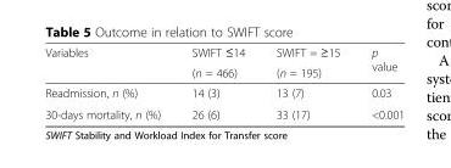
<table><thead><tr><td rowspan="2">Variables</td><td rowspan="2">SWIFT ≤14 (n = 466)</td><td rowspan="2">SWIFT = ≥15 (n = 195)</td><td rowspan="2">p value</td></tr><tr></tr></thead><tbody><tr><td>Readmission, n (%)</td><td>14 (3)</td><td>13 (7)</td><td>0.03</td></tr><tr><td>30-days mortality, n (%)</td><td>26 (6)</td><td>33 (17)</td><td>&lt;0.001</td></tr></tbody></table>